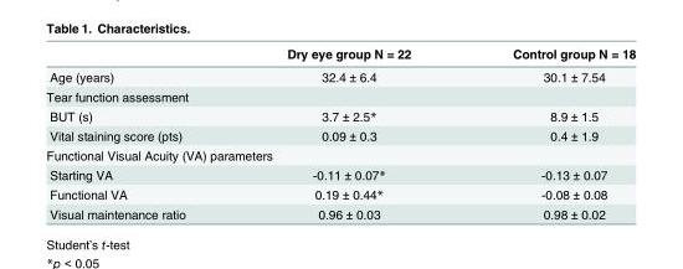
<table><thead><tr><td></td><td>Dry eye group N = 22</td><td>Control group N = 18</td></tr></thead><tbody><tr><td>Age (years)</td><td>32.4 ± 6.4</td><td>30.1 ± 7.54</td></tr><tr><td colspan="3">Tear function assessment</td></tr><tr><td>BUT (s)</td><td>3.7 ± 2.5*</td><td>8.9 ± 1.5</td></tr><tr><td>Vital staining score (pts)</td><td>0.09 ± 0.3</td><td>0.4 ± 1.9</td></tr><tr><td colspan="3">Functional Visual Acuity (VA) parameters</td></tr><tr><td>Starting VA</td><td>-0.11 ± 0.07*</td><td>-0.13 ± 0.07</td></tr><tr><td>Functional VA</td><td>0.19 ± 0.44*</td><td>-0.08 ± 0.08</td></tr><tr><td>Visual maintenance ratio</td><td>0.96 ± 0.03</td><td>0.98 ± 0.02</td></tr></tbody></table>